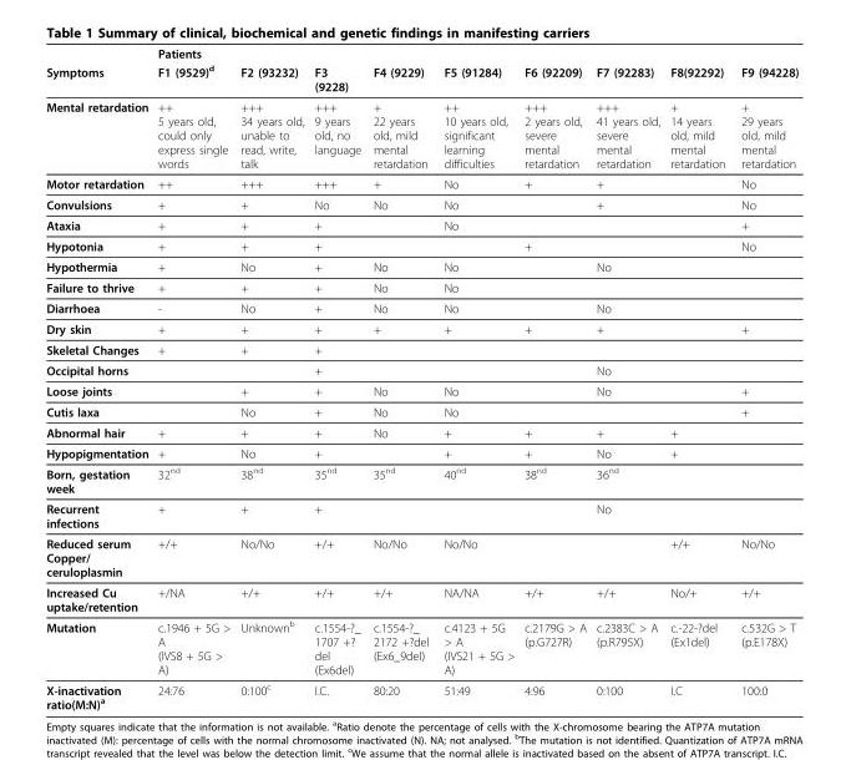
<table><thead><tr><td rowspan="2">Symptoms</td><td colspan="9">Patients</td></tr><tr><td>F1 (9529)<sup>d</sup></td><td>F2 (93232)</td><td>F3 (9228)</td><td>F4 (9229)</td><td>F5 (91284)</td><td>F6 (92209)</td><td>F7 (92283)</td><td>F8(92292)</td><td>F9 (94228)</td></tr></thead><tbody><tr><td>Mental retardation</td><td>++ 5 years old, could only express single words</td><td>+++ 34 years old, unable to read, write, talk</td><td>+++ 9 years old, no language</td><td>+ 22 years old, mild mental retardation</td><td>++ 10 years old, significant learning difficulties</td><td>+++ 2 years old, severe mental retardation</td><td>+++ 41 years old, severe mental retardation</td><td>+ 14 years old, mild mental retardation</td><td>+ 29 years old, mild mental retardation</td></tr><tr><td>Motor retardation</td><td>++</td><td>+++</td><td>+++</td><td>+</td><td>No</td><td>+</td><td>+</td><td></td><td>No</td></tr><tr><td>Convulsions</td><td>+</td><td>+</td><td>No</td><td>No</td><td>No</td><td></td><td>+</td><td></td><td>No</td></tr><tr><td>Ataxia</td><td>+</td><td>+</td><td>+</td><td></td><td>No</td><td></td><td></td><td></td><td>+</td></tr><tr><td>Hypotonia</td><td>+</td><td>+</td><td>+</td><td></td><td></td><td>+</td><td></td><td></td><td>No</td></tr><tr><td>Hypothermia</td><td>+</td><td>No</td><td>+</td><td>No</td><td>No</td><td></td><td>No</td><td></td><td></td></tr><tr><td>Failure to thrive</td><td>+</td><td>+</td><td>+</td><td>No</td><td>No</td><td></td><td></td><td></td><td></td></tr><tr><td>Diarrhoea</td><td>-</td><td>No</td><td>+</td><td>No</td><td>No</td><td></td><td>No</td><td></td><td></td></tr><tr><td>Dry skin</td><td>+</td><td>+</td><td>+</td><td>+</td><td>+</td><td>+</td><td>+</td><td></td><td>+</td></tr><tr><td>Skeletal Changes</td><td>+</td><td>+</td><td>+</td><td></td><td></td><td></td><td></td><td></td><td></td></tr><tr><td>Occipital horns</td><td></td><td></td><td>+</td><td></td><td></td><td></td><td>No</td><td></td><td></td></tr><tr><td>Loose joints</td><td></td><td>+</td><td>+</td><td>No</td><td>No</td><td></td><td>No</td><td></td><td>+</td></tr><tr><td>Cutis laxa</td><td></td><td>No</td><td>+</td><td>No</td><td>No</td><td></td><td></td><td></td><td>+</td></tr><tr><td>Abnormal hair</td><td>+</td><td>+</td><td>+</td><td>No</td><td>+</td><td>+</td><td>+</td><td>+</td><td></td></tr><tr><td>Hypopigmentation</td><td>+</td><td>No</td><td>+</td><td></td><td>+</td><td>+</td><td>No</td><td>+</td><td></td></tr><tr><td>Born, gestation week</td><td>32<sup>nd</sup></td><td>38<sup>nd</sup></td><td>35<sup>nd</sup></td><td>35<sup>nd</sup></td><td>40<sup>nd</sup></td><td>38<sup>nd</sup></td><td>36<sup>nd</sup></td><td></td><td></td></tr><tr><td>Recurrent infections</td><td>+</td><td>+</td><td>+</td><td></td><td></td><td></td><td>No</td><td></td><td></td></tr><tr><td>Reduced serum Copper/ ceruloplasmin</td><td>+/+</td><td>No/No</td><td>+/+</td><td>No/No</td><td>No/No</td><td></td><td></td><td>+/+</td><td>No/No</td></tr><tr><td>Increased Cu uptake/retention</td><td>+/NA</td><td>+/+</td><td>+/+</td><td>+/+</td><td>NA/NA</td><td>+/+</td><td>+/+</td><td>No/+</td><td>+/+</td></tr><tr><td>Mutation</td><td>c.1946 + 5G &gt; A (IVS8 + 5G &gt; A)</td><td>Unknown<sup>b</sup></td><td>c.1554-?_ 1707 +? del (Ex6del)</td><td>c.1554-?_ 2172 +?del (Ex6_9del)</td><td>c.4123 + 5G &gt; A (IVS21 + 5G &gt; A)</td><td>c.2179G &gt; A (p.G727R)</td><td>c.2383C &gt; A (p.R795X)</td><td>c.-22-?del (Ex1del)</td><td>c.532G &gt; T (p.E178X)</td></tr><tr><td>X-inactivation ratio(M:N)<sup>a</sup></td><td>24:76</td><td>0:100<sup>c</sup></td><td>I.C.</td><td>80:20</td><td>51:49</td><td>4:96</td><td>0:100</td><td>I.C</td><td>100:0</td></tr></tbody></table>